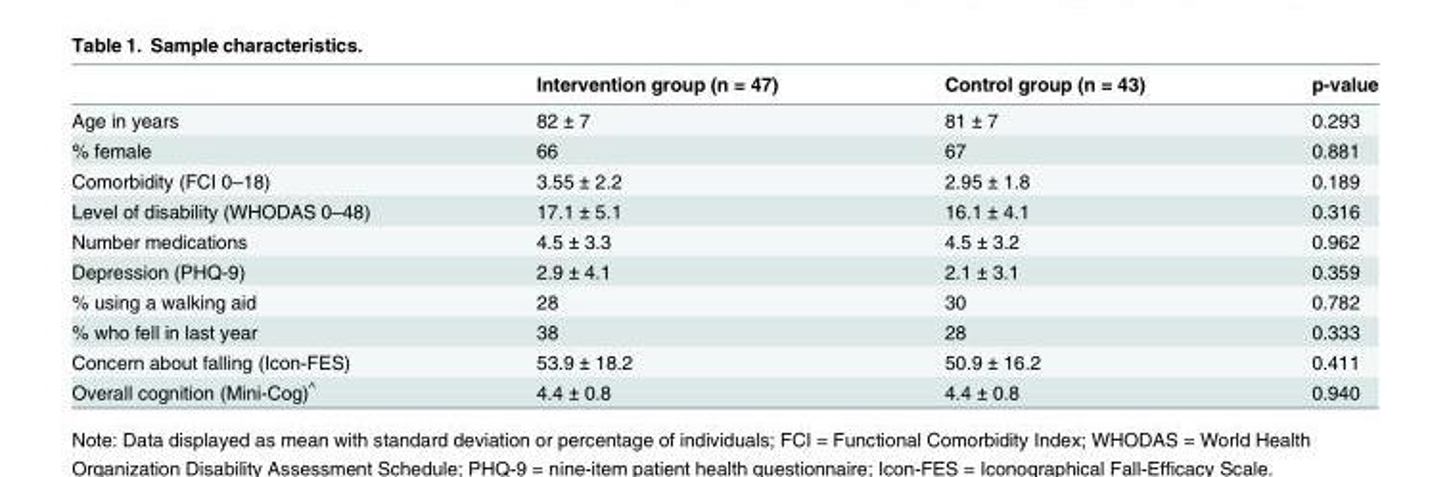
<table><thead><tr><td></td><td>Intervention group (n = 47)</td><td>Control group (n = 43)</td><td>p-value</td></tr></thead><tbody><tr><td>Age in years</td><td>82 ± 7</td><td>81 ± 7</td><td>0.293</td></tr><tr><td>% female</td><td>66</td><td>67</td><td>0.881</td></tr><tr><td>Comorbidity (FCI 0–18)</td><td>3.55 ± 2.2</td><td>2.95 ± 1.8</td><td>0.189</td></tr><tr><td>Level of disability (WHODAS 0–48)</td><td>17.1 ± 5.1</td><td>16.1 ± 4.1</td><td>0.316</td></tr><tr><td>Number medications</td><td>4.5 ± 3.3</td><td>4.5 ± 3.2</td><td>0.962</td></tr><tr><td>Depression (PHQ-9)</td><td>2.9 ± 4.1</td><td>2.1 ± 3.1</td><td>0.359</td></tr><tr><td>% using a walking aid</td><td>28</td><td>30</td><td>0.782</td></tr><tr><td>% who fell in last year</td><td>38</td><td>28</td><td>0.333</td></tr><tr><td>Concern about falling (Icon-FES)</td><td>53.9 ± 18.2</td><td>50.9 ± 16.2</td><td>0.411</td></tr><tr><td>Overall cognition (Mini-Cog)<sup>^</sup></td><td>4.4 ± 0.8</td><td>4.4 ± 0.8</td><td>0.940</td></tr></tbody></table>